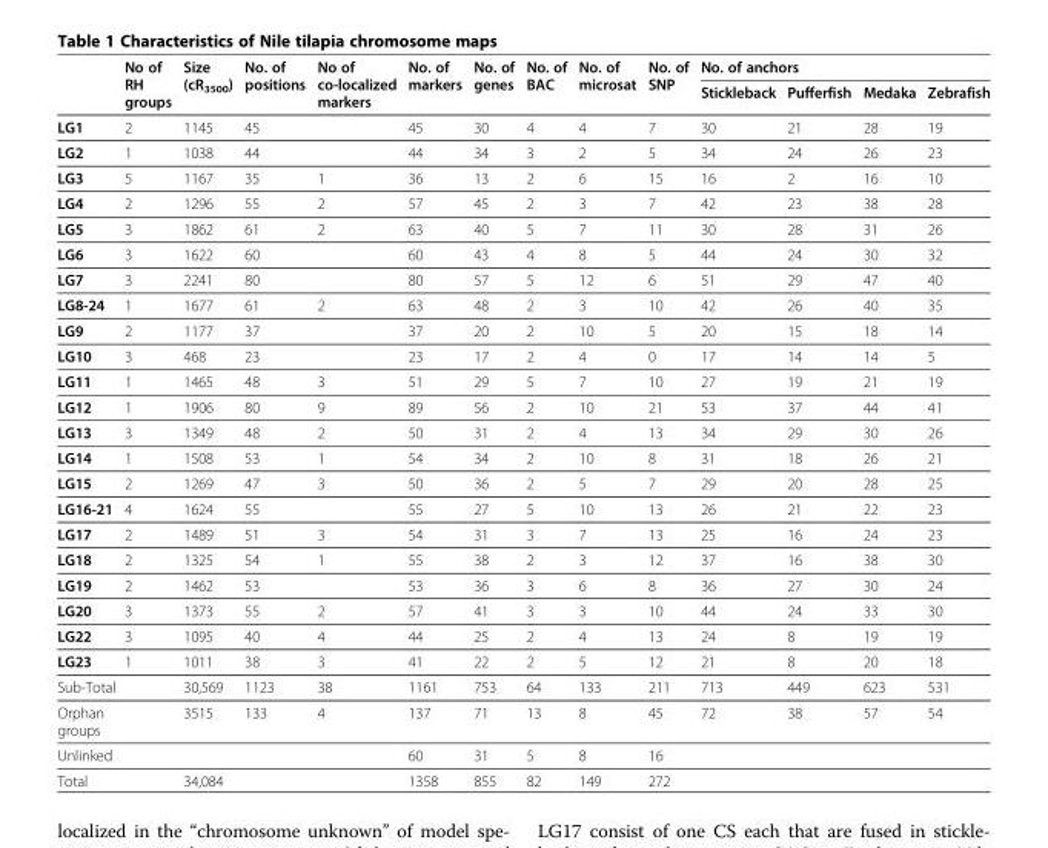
<table><thead><tr><td rowspan="2"></td><td rowspan="2">No of RH groups</td><td rowspan="2">Size (cR<sub>3500</sub>)</td><td rowspan="2">No. of positions</td><td rowspan="2">No of co-localized markers</td><td rowspan="2">No. of markers</td><td rowspan="2">No. of genes</td><td rowspan="2">No. of BAC</td><td rowspan="2">No. of microsat</td><td rowspan="2">No. of SNP</td><td colspan="4">No. of anchors</td></tr><tr><td>Stickleback</td><td>Pufferfish</td><td>Medaka</td><td>Zebrafish</td></tr></thead><tbody><tr><td>LG1</td><td>2</td><td>1145</td><td>45</td><td></td><td>45</td><td>30</td><td>4</td><td>4</td><td>7</td><td>30</td><td>21</td><td>28</td><td>19</td></tr><tr><td>LG2</td><td>1</td><td>1038</td><td>44</td><td></td><td>44</td><td>34</td><td>3</td><td>2</td><td>5</td><td>34</td><td>24</td><td>26</td><td>23</td></tr><tr><td>LG3</td><td>5</td><td>1167</td><td>35</td><td>1</td><td>36</td><td>13</td><td>2</td><td>6</td><td>15</td><td>16</td><td>2</td><td>16</td><td>10</td></tr><tr><td>LG4</td><td>2</td><td>1296</td><td>55</td><td>2</td><td>57</td><td>45</td><td>2</td><td>3</td><td>7</td><td>42</td><td>23</td><td>38</td><td>28</td></tr><tr><td>LG5</td><td>3</td><td>1862</td><td>61</td><td>2</td><td>63</td><td>40</td><td>5</td><td>7</td><td>11</td><td>30</td><td>28</td><td>31</td><td>26</td></tr><tr><td>LG6</td><td>3</td><td>1622</td><td>60</td><td></td><td>60</td><td>43</td><td>4</td><td>8</td><td>5</td><td>44</td><td>24</td><td>30</td><td>32</td></tr><tr><td>LG7</td><td>3</td><td>2241</td><td>80</td><td></td><td>80</td><td>57</td><td>5</td><td>12</td><td>6</td><td>51</td><td>29</td><td>47</td><td>40</td></tr><tr><td>LG8-24</td><td>1</td><td>1677</td><td>61</td><td>2</td><td>63</td><td>48</td><td>2</td><td>3</td><td>10</td><td>42</td><td>26</td><td>40</td><td>35</td></tr><tr><td>LG9</td><td>2</td><td>1177</td><td>37</td><td></td><td>37</td><td>20</td><td>2</td><td>10</td><td>5</td><td>20</td><td>15</td><td>18</td><td>14</td></tr><tr><td>LG10</td><td>3</td><td>468</td><td>23</td><td></td><td>23</td><td>17</td><td>2</td><td>4</td><td>0</td><td>17</td><td>14</td><td>14</td><td>5</td></tr><tr><td>LG11</td><td>1</td><td>1465</td><td>48</td><td>3</td><td>51</td><td>29</td><td>5</td><td>7</td><td>10</td><td>27</td><td>19</td><td>21</td><td>19</td></tr><tr><td>LG12</td><td>1</td><td>1906</td><td>80</td><td>9</td><td>89</td><td>56</td><td>2</td><td>10</td><td>21</td><td>53</td><td>37</td><td>44</td><td>41</td></tr><tr><td>LG13</td><td>3</td><td>1349</td><td>48</td><td>2</td><td>50</td><td>31</td><td>2</td><td>4</td><td>13</td><td>34</td><td>29</td><td>30</td><td>26</td></tr><tr><td>LG14</td><td>1</td><td>1508</td><td>53</td><td>1</td><td>54</td><td>34</td><td>2</td><td>10</td><td>8</td><td>31</td><td>18</td><td>26</td><td>21</td></tr><tr><td>LG15</td><td>2</td><td>1269</td><td>47</td><td>3</td><td>50</td><td>36</td><td>2</td><td>5</td><td>7</td><td>29</td><td>20</td><td>28</td><td>25</td></tr><tr><td>LG16-21</td><td>4</td><td>1624</td><td>55</td><td></td><td>55</td><td>27</td><td>5</td><td>10</td><td>13</td><td>26</td><td>21</td><td>22</td><td>23</td></tr><tr><td>LG17</td><td>2</td><td>1489</td><td>51</td><td>3</td><td>54</td><td>31</td><td>3</td><td>7</td><td>13</td><td>25</td><td>16</td><td>24</td><td>23</td></tr><tr><td>LG18</td><td>2</td><td>1325</td><td>54</td><td>1</td><td>55</td><td>38</td><td>2</td><td>3</td><td>12</td><td>37</td><td>16</td><td>38</td><td>30</td></tr><tr><td>LG19</td><td>2</td><td>1462</td><td>53</td><td></td><td>53</td><td>36</td><td>3</td><td>6</td><td>8</td><td>36</td><td>27</td><td>30</td><td>24</td></tr><tr><td>LG20</td><td>3</td><td>1373</td><td>55</td><td>2</td><td>57</td><td>41</td><td>3</td><td>3</td><td>10</td><td>44</td><td>24</td><td>33</td><td>30</td></tr><tr><td>LG22</td><td>3</td><td>1095</td><td>40</td><td>4</td><td>44</td><td>25</td><td>2</td><td>4</td><td>13</td><td>24</td><td>8</td><td>19</td><td>19</td></tr><tr><td>LG23</td><td>1</td><td>1011</td><td>38</td><td>3</td><td>41</td><td>22</td><td>2</td><td>5</td><td>12</td><td>21</td><td>8</td><td>20</td><td>18</td></tr><tr><td colspan="2">Sub-Total</td><td>30,569</td><td>1123</td><td>38</td><td>1161</td><td>753</td><td>64</td><td>133</td><td>211</td><td>713</td><td>449</td><td>623</td><td>531</td></tr><tr><td colspan="2">Orphan groups</td><td>3515</td><td>133</td><td>4</td><td>137</td><td>71</td><td>13</td><td>8</td><td>45</td><td>72</td><td>38</td><td>57</td><td>54</td></tr><tr><td colspan="2">Unlinked</td><td></td><td></td><td></td><td>60</td><td>31</td><td>5</td><td>8</td><td>16</td><td></td><td></td><td></td><td></td></tr><tr><td>Total</td><td></td><td>34,084</td><td></td><td></td><td>1358</td><td>855</td><td>82</td><td>149</td><td>272</td><td></td><td></td><td></td><td></td></tr></tbody></table>